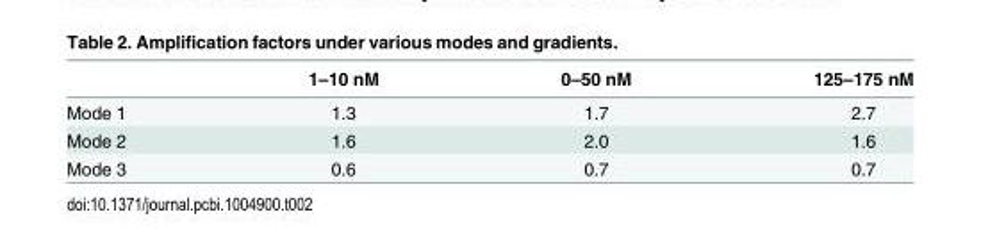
<table><thead><tr><td></td><td>1–10 nM</td><td>0–50 nM</td><td>125–175 nM</td></tr></thead><tbody><tr><td>Mode 1</td><td>1.3</td><td>1.7</td><td>2.7</td></tr><tr><td>Mode 2</td><td>1.6</td><td>2.0</td><td>1.6</td></tr><tr><td>Mode 3</td><td>0.6</td><td>0.7</td><td>0.7</td></tr></tbody></table>